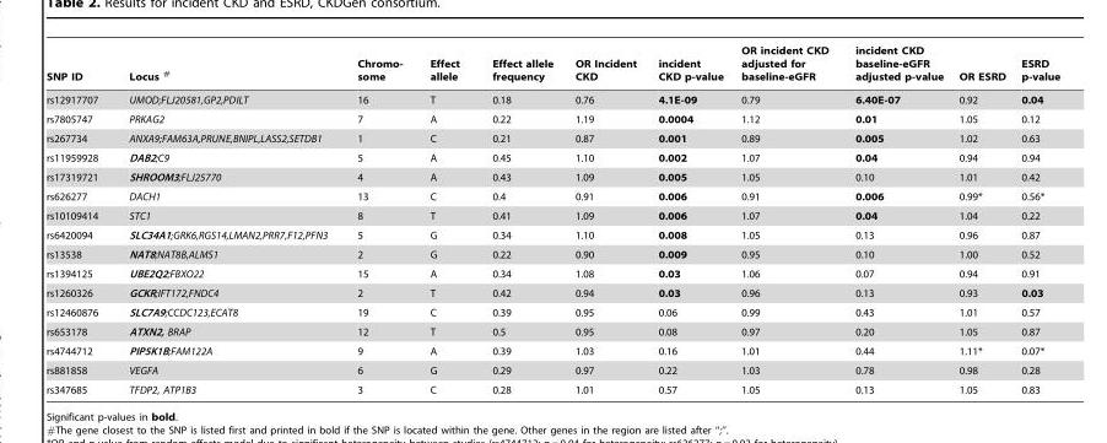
<table><thead><tr><td>SNP ID</td><td>Locus <sup>#</sup></td><td>Chromo- some</td><td>Effect allele</td><td>Effect allele frequency</td><td>OR Incident CKD</td><td>incident CKD p-value</td><td>OR incident CKD adjusted for baseline-eGFR</td><td>incident CKD baseline-eGFR adjusted p-value</td><td>OR ESRD</td><td>ESRD p-value</td></tr></thead><tbody><tr><td>rs12917707</td><td>UMOD;FLJ20581,GP2,PDILT</td><td>16</td><td>T</td><td>0.18</td><td>0.76</td><td>4.1E-09</td><td>0.79</td><td>6.40E-07</td><td>0.92</td><td>0.04</td></tr><tr><td>rs7805747</td><td>PRKAG2</td><td>7</td><td>A</td><td>0.22</td><td>1.19</td><td>0.0004</td><td>1.12</td><td>0.01</td><td>1.05</td><td>0.12</td></tr><tr><td>rs267734</td><td>ANXA9;FAM63A,PRUNE,BNIPL,LASS2,SETDB1</td><td>1</td><td>C</td><td>0.21</td><td>0.87</td><td>0.001</td><td>0.89</td><td>0.005</td><td>1.02</td><td>0.63</td></tr><tr><td>rs11959928</td><td>DAB2;C9</td><td>5</td><td>A</td><td>0.45</td><td>1.10</td><td>0.002</td><td>1.07</td><td>0.04</td><td>0.94</td><td>0.94</td></tr><tr><td>rs17319721</td><td>SHROOM3;FLJ25770</td><td>4</td><td>A</td><td>0.43</td><td>1.09</td><td>0.005</td><td>1.05</td><td>0.10</td><td>1.01</td><td>0.42</td></tr><tr><td>rs626277</td><td>DACH1</td><td>13</td><td>C</td><td>0.4</td><td>0.91</td><td>0.006</td><td>0.91</td><td>0.006</td><td>0.99*</td><td>0.56*</td></tr><tr><td>rs10109414</td><td>STC1</td><td>8</td><td>T</td><td>0.41</td><td>1.09</td><td>0.006</td><td>1.07</td><td>0.04</td><td>1.04</td><td>0.22</td></tr><tr><td>rs6420094</td><td>SLC34A1;GRK6,RGS14,LMAN2,PRR7,F12,PFN3</td><td>5</td><td>G</td><td>0.34</td><td>1.10</td><td>0.008</td><td>1.05</td><td>0.13</td><td>0.96</td><td>0.87</td></tr><tr><td>rs13538</td><td>NAT8;NAT8B,ALMS1</td><td>2</td><td>G</td><td>0.22</td><td>0.90</td><td>0.009</td><td>0.95</td><td>0.10</td><td>1.00</td><td>0.52</td></tr><tr><td>rs1394125</td><td>UBE2Q2;FBXO22</td><td>15</td><td>A</td><td>0.34</td><td>1.08</td><td>0.03</td><td>1.06</td><td>0.07</td><td>0.94</td><td>0.91</td></tr><tr><td>rs1260326</td><td>GCKR;IFT172,FNDC4</td><td>2</td><td>T</td><td>0.42</td><td>0.94</td><td>0.03</td><td>0.96</td><td>0.13</td><td>0.93</td><td>0.03</td></tr><tr><td>rs12460876</td><td>SLC7A9;CCDC123,ECAT8</td><td>19</td><td>C</td><td>0.39</td><td>0.95</td><td>0.06</td><td>0.99</td><td>0.43</td><td>1.01</td><td>0.57</td></tr><tr><td>rs653178</td><td>ATXN2, BRAP</td><td>12</td><td>T</td><td>0.5</td><td>0.95</td><td>0.08</td><td>0.97</td><td>0.20</td><td>1.05</td><td>0.87</td></tr><tr><td>rs4744712</td><td>PIP5K1B;FAM122A</td><td>9</td><td>A</td><td>0.39</td><td>1.03</td><td>0.16</td><td>1.01</td><td>0.44</td><td>1.11*</td><td>0.07*</td></tr><tr><td>rs881858</td><td>VEGFA</td><td>6</td><td>G</td><td>0.29</td><td>0.97</td><td>0.22</td><td>1.03</td><td>0.78</td><td>0.98</td><td>0.28</td></tr><tr><td>rs347685</td><td>TFDP2, ATP1B3</td><td>3</td><td>C</td><td>0.28</td><td>1.01</td><td>0.57</td><td>1.05</td><td>0.13</td><td>1.05</td><td>0.83</td></tr></tbody></table>